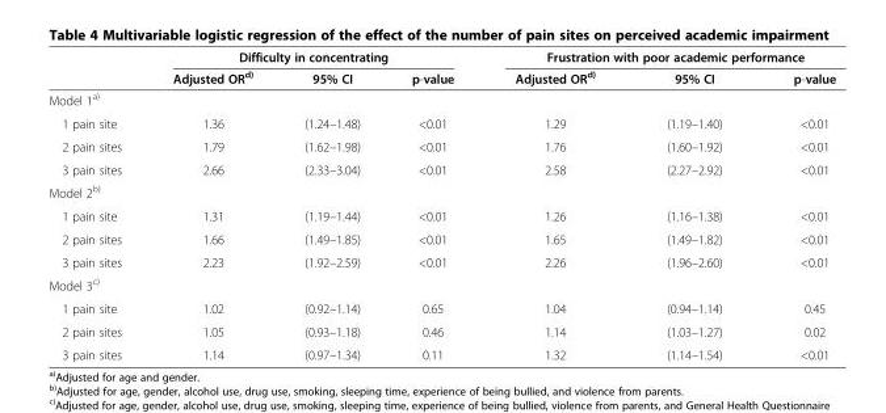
<table><thead><tr><td rowspan="2"></td><td colspan="3">Difficulty in concentrating</td><td colspan="3">Frustration with poor academic performance</td></tr><tr><td>Adjusted OR<sup>d)</sup></td><td>95% CI</td><td>p-value</td><td>Adjusted OR<sup>d)</sup></td><td>95% CI</td><td>p-value</td></tr></thead><tbody><tr><td colspan="7">Model 1<sup>a)</sup></td></tr><tr><td>1 pain site</td><td>1.36</td><td>(1.24–1.48)</td><td>&lt;0.01</td><td>1.29</td><td>(1.19–1.40)</td><td>&lt;0.01</td></tr><tr><td>2 pain sites</td><td>1.79</td><td>(1.62–1.98)</td><td>&lt;0.01</td><td>1.76</td><td>(1.60–1.92)</td><td>&lt;0.01</td></tr><tr><td>3 pain sites</td><td>2.66</td><td>(2.33–3.04)</td><td>&lt;0.01</td><td>2.58</td><td>(2.27–2.92)</td><td>&lt;0.01</td></tr><tr><td colspan="7">Model 2<sup>b)</sup></td></tr><tr><td>1 pain site</td><td>1.31</td><td>(1.19–1.44)</td><td>&lt;0.01</td><td>1.26</td><td>(1.16–1.38)</td><td>&lt;0.01</td></tr><tr><td>2 pain sites</td><td>1.66</td><td>(1.49–1.85)</td><td>&lt;0.01</td><td>1.65</td><td>(1.49–1.82)</td><td>&lt;0.01</td></tr><tr><td>3 pain sites</td><td>2.23</td><td>(1.92–2.59)</td><td>&lt;0.01</td><td>2.26</td><td>(1.96–2.60)</td><td>&lt;0.01</td></tr><tr><td colspan="7">Model 3<sup>c)</sup></td></tr><tr><td>1 pain site</td><td>1.02</td><td>(0.92–1.14)</td><td>0.65</td><td>1.04</td><td>(0.94–1.14)</td><td>0.45</td></tr><tr><td>2 pain sites</td><td>1.05</td><td>(0.93–1.18)</td><td>0.46</td><td>1.14</td><td>(1.03–1.27)</td><td>0.02</td></tr><tr><td>3 pain sites</td><td>1.14</td><td>(0.97–1.34)</td><td>0.11</td><td>1.32</td><td>(1.14–1.54)</td><td>&lt;0.01</td></tr></tbody></table>